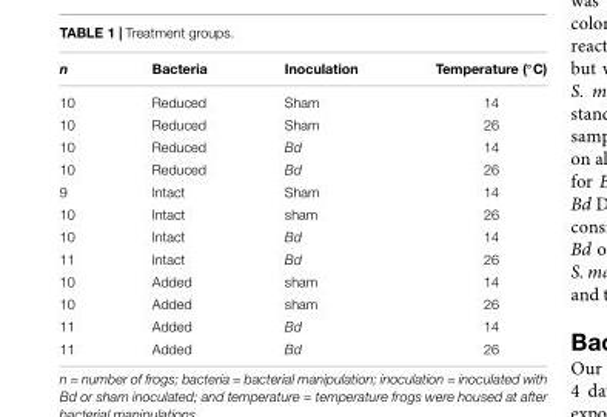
<table><thead><tr><td>n</td><td>Bacteria</td><td>Inoculation</td><td>Temperature (◦C)</td></tr></thead><tbody><tr><td>10</td><td>Reduced</td><td>Sham</td><td>14</td></tr><tr><td>10</td><td>Reduced</td><td>Sham</td><td>26</td></tr><tr><td>10</td><td>Reduced</td><td>Bd</td><td>14</td></tr><tr><td>10</td><td>Reduced</td><td>Bd</td><td>26</td></tr><tr><td>9</td><td>Intact</td><td>Sham</td><td>14</td></tr><tr><td>10</td><td>Intact</td><td>sham</td><td>26</td></tr><tr><td>10</td><td>Intact</td><td>Bd</td><td>14</td></tr><tr><td>11</td><td>Intact</td><td>Bd</td><td>26</td></tr><tr><td>10</td><td>Added</td><td>sham</td><td>14</td></tr><tr><td>10</td><td>Added</td><td>sham</td><td>26</td></tr><tr><td>11</td><td>Added</td><td>Bd</td><td>14</td></tr><tr><td>11</td><td>Added</td><td>Bd</td><td>26</td></tr></tbody></table>